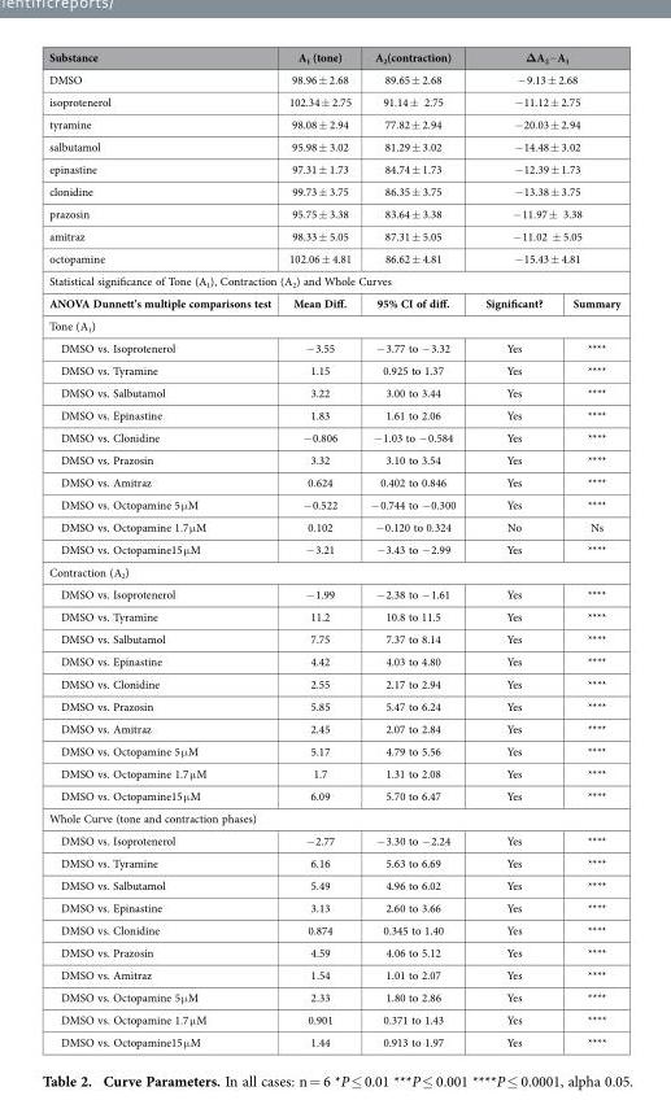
<table><thead><tr><td>Substance</td><td>A<sub>1</sub> (tone)</td><td>A<sub>2</sub>(contraction)</td><td colspan="2">DA<sub>2</sub> – A<sub>1</sub></td></tr></thead><tbody><tr><td>DMSO</td><td>98.96 ± 2.68</td><td>89.65 ± 2.68</td><td colspan="2">− 9.13 ± 2.68</td></tr><tr><td>isoprotenerol</td><td>102.34 ± 2.75</td><td>91.14 ± 2.75</td><td colspan="2">− 11.12 ± 2.75</td></tr><tr><td>tyramine</td><td>98.08 ± 2.94</td><td>77.82 ± 2.94</td><td colspan="2">− 20.03 ± 2.94</td></tr><tr><td>salbutamol</td><td>95.98 ± 3.02</td><td>81.29 ± 3.02</td><td colspan="2">− 14.48 ± 3.02</td></tr><tr><td>epinastine</td><td>97.31 ± 1.73</td><td>84.74 ± 1.73</td><td colspan="2">− 12.39 ± 1.73</td></tr><tr><td>clonidine</td><td>99.73 ± 3.75</td><td>86.35 ± 3.75</td><td colspan="2">− 13.38 ± 3.75</td></tr><tr><td>prazosin</td><td>95.75 ± 3.38</td><td>83.64 ± 3.38</td><td colspan="2">− 11.97 ± 3.38</td></tr><tr><td>amitraz</td><td>98.33 ± 5.05</td><td>87.31 ± 5.05</td><td colspan="2">− 11.02 ± 5.05</td></tr><tr><td>octopamine</td><td>102.06 ± 4.81</td><td>86.62 ± 4.81</td><td colspan="2">− 15.43 ± 4.81</td></tr><tr><td colspan="5">Statistical significance of Tone (A<sub>1</sub>), Contraction (A<sub>2</sub>) and Whole Curves</td></tr><tr><td>ANOVA Dunnett&#x27;s multiple comparisons test</td><td>Mean Diff.</td><td>95% CI of diff.</td><td>Significant?</td><td>Summary</td></tr><tr><td colspan="5">Tone (A<sub>1</sub>)</td></tr><tr><td>DMSO vs. Isoprotenerol</td><td>− 3.55</td><td>− 3.77 to − 3.32</td><td>Yes</td><td>****</td></tr><tr><td>DMSO vs. Tyramine</td><td>1.15</td><td>0.925 to 1.37</td><td>Yes</td><td>****</td></tr><tr><td>DMSO vs. Salbutamol</td><td>3.22</td><td>3.00 to 3.44</td><td>Yes</td><td>****</td></tr><tr><td>DMSO vs. Epinastine</td><td>1.83</td><td>1.61 to 2.06</td><td>Yes</td><td>****</td></tr><tr><td>DMSO vs. Clonidine</td><td>− 0.806</td><td>− 1.03 to − 0.584</td><td>Yes</td><td>****</td></tr><tr><td>DMSO vs. Prazosin</td><td>3.32</td><td>3.10 to 3.54</td><td>Yes</td><td>****</td></tr><tr><td>DMSO vs. Amitraz</td><td>0.624</td><td>0.402 to 0.846</td><td>Yes</td><td>****</td></tr><tr><td>DMSO vs. Octopamine 5 μ M</td><td>− 0.522</td><td>− 0.744 to − 0.300</td><td>Yes</td><td>****</td></tr><tr><td>DMSO vs. Octopamine 1.7 μ M</td><td>0.102</td><td>− 0.120 to 0.324</td><td>No</td><td>Ns</td></tr><tr><td>DMSO vs. Octopamine15 μ M</td><td>− 3.21</td><td>− 3.43 to − 2.99</td><td>Yes</td><td>****</td></tr><tr><td colspan="5">Contraction (A<sub>2</sub>)</td></tr><tr><td>DMSO vs. Isoprotenerol</td><td>− 1.99</td><td>− 2.38 to − 1.61</td><td>Yes</td><td>****</td></tr><tr><td>DMSO vs. Tyramine</td><td>11.2</td><td>10.8 to 11.5</td><td>Yes</td><td>****</td></tr><tr><td>DMSO vs. Salbutamol</td><td>7.75</td><td>7.37 to 8.14</td><td>Yes</td><td>****</td></tr><tr><td>DMSO vs. Epinastine</td><td>4.42</td><td>4.03 to 4.80</td><td>Yes</td><td>****</td></tr><tr><td>DMSO vs. Clonidine</td><td>2.55</td><td>2.17 to 2.94</td><td>Yes</td><td>****</td></tr><tr><td>DMSO vs. Prazosin</td><td>5.85</td><td>5.47 to 6.24</td><td>Yes</td><td>****</td></tr><tr><td>DMSO vs. Amitraz</td><td>2.45</td><td>2.07 to 2.84</td><td>Yes</td><td>****</td></tr><tr><td>DMSO vs. Octopamine 5 μ M</td><td>5.17</td><td>4.79 to 5.56</td><td>Yes</td><td>****</td></tr><tr><td>DMSO vs. Octopamine 1.7 μ M</td><td>1.7</td><td>1.31 to 2.08</td><td>Yes</td><td>****</td></tr><tr><td>DMSO vs. Octopamine15 μ M</td><td>6.09</td><td>5.70 to 6.47</td><td>Yes</td><td>****</td></tr><tr><td colspan="5">Whole Curve (tone and contraction phases)</td></tr><tr><td>DMSO vs. Isoprotenerol</td><td>− 2.77</td><td>− 3.30 to − 2.24</td><td>Yes</td><td>****</td></tr><tr><td>DMSO vs. Tyramine</td><td>6.16</td><td>5.63 to 6.69</td><td>Yes</td><td>****</td></tr><tr><td>DMSO vs. Salbutamol</td><td>5.49</td><td>4.96 to 6.02</td><td>Yes</td><td>****</td></tr><tr><td>DMSO vs. Epinastine</td><td>3.13</td><td>2.60 to 3.66</td><td>Yes</td><td>****</td></tr><tr><td>DMSO vs. Clonidine</td><td>0.874</td><td>0.345 to 1.40</td><td>Yes</td><td>****</td></tr><tr><td>DMSO vs. Prazosin</td><td>4.59</td><td>4.06 to 5.12</td><td>Yes</td><td>****</td></tr><tr><td>DMSO vs. Amitraz</td><td>1.54</td><td>1.01 to 2.07</td><td>Yes</td><td>****</td></tr><tr><td>DMSO vs. Octopamine 5 μ M</td><td>2.33</td><td>1.80 to 2.86</td><td>Yes</td><td>****</td></tr><tr><td>DMSO vs. Octopamine 1.7 μ M</td><td>0.901</td><td>0.371 to 1.43</td><td>Yes</td><td>****</td></tr><tr><td>DMSO vs. Octopamine15 μ M</td><td>1.44</td><td>0.913 to 1.97</td><td>Yes</td><td>****</td></tr></tbody></table>